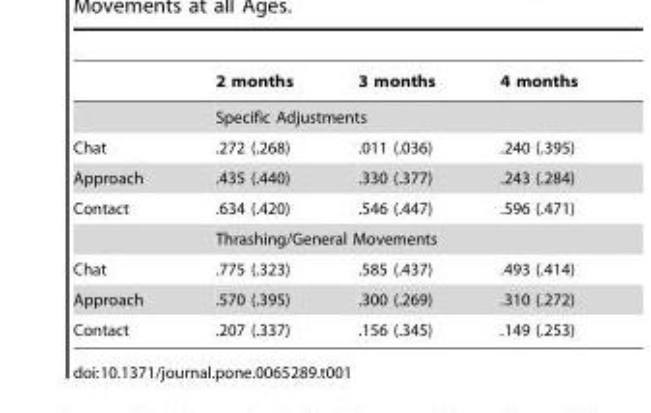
<table><thead><tr><td></td><td>2 months</td><td>3 months</td><td>4 months</td></tr></thead><tbody><tr><td></td><td colspan="3">Specific Adjustments</td></tr><tr><td>Chat</td><td>.272 (.268)</td><td>.011 (.036)</td><td>.240 (.395)</td></tr><tr><td>Approach</td><td>.435 (.440)</td><td>.330 (.377)</td><td>.243 (.284)</td></tr><tr><td rowspan="2">Contact</td><td>.634 (.420)</td><td>.546 (.447)</td><td>.596 (.471)</td></tr><tr><td colspan="3">Thrashing/General Movements</td></tr><tr><td>Chat</td><td>.775 (.323)</td><td>.585 (.437)</td><td>.493 (.414)</td></tr><tr><td>Approach</td><td>.570 (.395)</td><td>.300 (.269)</td><td>.310 (.272)</td></tr><tr><td>Contact</td><td>.207 (.337)</td><td>.156 (.345)</td><td>.149 (.253)</td></tr></tbody></table>